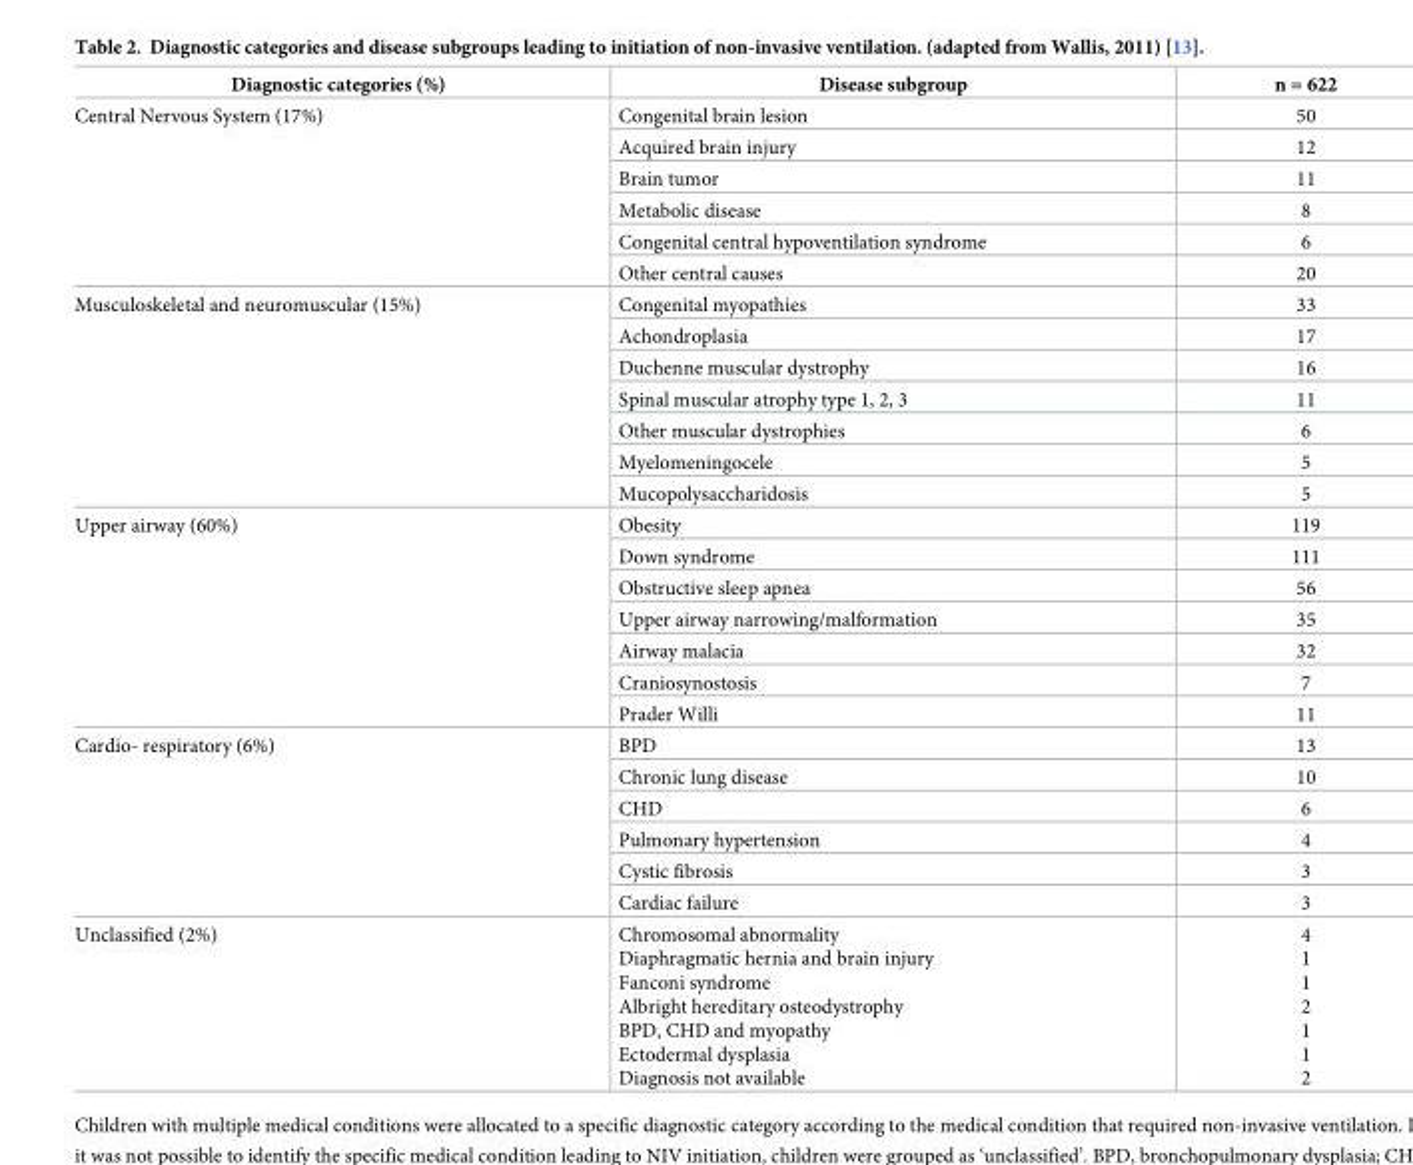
<table><thead><tr><td>Diagnostic categories (%)</td><td>Disease subgroup</td><td>n = 622</td></tr></thead><tbody><tr><td rowspan="6">Central Nervous System (17%)</td><td>Congenital brain lesion</td><td>50</td></tr><tr><td>Acquired brain injury</td><td>12</td></tr><tr><td>Brain tumor</td><td>11</td></tr><tr><td>Metabolic disease</td><td>8</td></tr><tr><td>Congenital central hypoventilation syndrome</td><td>6</td></tr><tr><td>Other central causes</td><td>20</td></tr><tr><td rowspan="7">Musculoskeletal and neuromuscular (15%)</td><td>Congenital myopathies</td><td>33</td></tr><tr><td>Achondroplasia</td><td>17</td></tr><tr><td>Duchenne muscular dystrophy</td><td>16</td></tr><tr><td>Spinal muscular atrophy type 1, 2, 3</td><td>11</td></tr><tr><td>Other muscular dystrophies</td><td>6</td></tr><tr><td>Myelomeningocele</td><td>5</td></tr><tr><td>Mucopolysaccharidosis</td><td>5</td></tr><tr><td rowspan="7">Upper airway (60%)</td><td>Obesity</td><td>119</td></tr><tr><td>Down syndrome</td><td>111</td></tr><tr><td>Obstructive sleep apnea</td><td>56</td></tr><tr><td>Upper airway narrowing/malformation</td><td>35</td></tr><tr><td>Airway malacia</td><td>32</td></tr><tr><td>Craniosynostosis</td><td>7</td></tr><tr><td>Prader Willi</td><td>11</td></tr><tr><td rowspan="6">Cardio- respiratory (6%)</td><td>BPD</td><td>13</td></tr><tr><td>Chronic lung disease</td><td>10</td></tr><tr><td>CHD</td><td>6</td></tr><tr><td>Pulmonary hypertension</td><td>4</td></tr><tr><td>Cystic fibrosis</td><td>3</td></tr><tr><td>Cardiac failure</td><td>3</td></tr><tr><td>Unclassified (2%)</td><td>Chromosomal abnormality Diaphragmatic hernia and brain injury Fanconi syndrome Albright hereditary osteodystrophy BPD, CHD and myopathy Ectodermal dysplasia Diagnosis not available</td><td>4 1 1 2 1 1 2</td></tr></tbody></table>